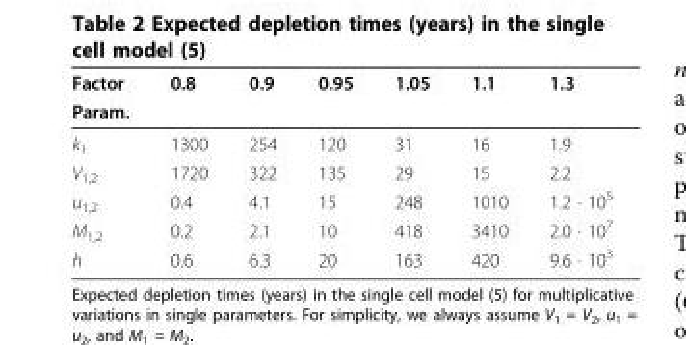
<table><thead><tr><td rowspan="2">Factor Param.</td><td rowspan="2">0.8</td><td rowspan="2">0.9</td><td rowspan="2">0.95</td><td rowspan="2">1.05</td><td rowspan="2">1.1</td><td rowspan="2">1.3</td></tr><tr></tr></thead><tbody><tr><td>k<sub>1</sub></td><td>1300</td><td>254</td><td>120</td><td>31</td><td>16</td><td>1.9</td></tr><tr><td>V<sub>1,2</sub></td><td>1720</td><td>322</td><td>135</td><td>29</td><td>15</td><td>2.2</td></tr><tr><td>u<sub>1,2</sub></td><td>0.4</td><td>4.1</td><td>15</td><td>248</td><td>1010</td><td>1.2 · 10<sup>5</sup></td></tr><tr><td>M<sub>1,2</sub></td><td>0.2</td><td>2.1</td><td>10</td><td>418</td><td>3410</td><td>2.0 · 10<sup>7</sup></td></tr><tr><td>h</td><td>0.6</td><td>6.3</td><td>20</td><td>163</td><td>420</td><td>9.6 · 10<sup>3</sup></td></tr></tbody></table>